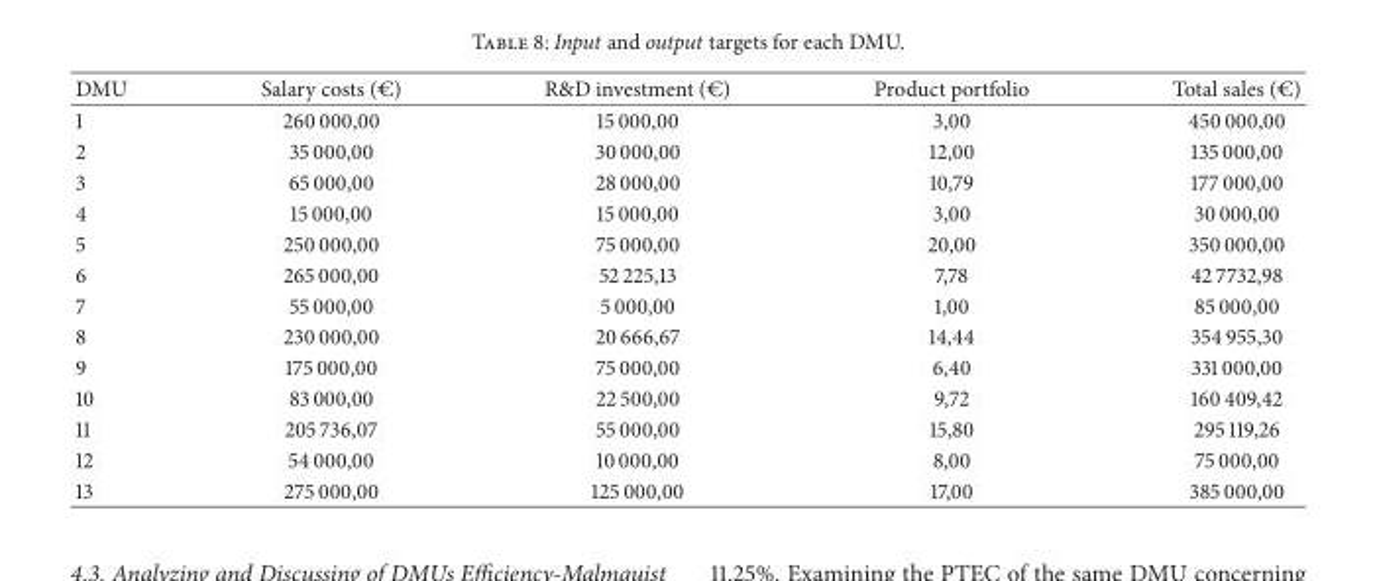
<table><thead><tr><td>DMU</td><td>Salary costs (€)</td><td>R&amp;D investment (€)</td><td>Product portfolio</td><td>Total sales (€)</td></tr></thead><tbody><tr><td>1</td><td>260 000,00</td><td>15 000,00</td><td>3,00</td><td>450 000,00</td></tr><tr><td>2</td><td>35 000,00</td><td>30 000,00</td><td>12,00</td><td>135 000,00</td></tr><tr><td>3</td><td>65 000,00</td><td>28 000,00</td><td>10,79</td><td>177 000,00</td></tr><tr><td>4</td><td>15 000,00</td><td>15 000,00</td><td>3,00</td><td>30 000,00</td></tr><tr><td>5</td><td>250 000,00</td><td>75 000,00</td><td>20,00</td><td>350 000,00</td></tr><tr><td>6</td><td>265 000,00</td><td>52 225,13</td><td>7,78</td><td>42 7732,98</td></tr><tr><td>7</td><td>55 000,00</td><td>5 000,00</td><td>1,00</td><td>85 000,00</td></tr><tr><td>8</td><td>230 000,00</td><td>20 666,67</td><td>14,44</td><td>354 955,30</td></tr><tr><td>9</td><td>175 000,00</td><td>75 000,00</td><td>6,40</td><td>331 000,00</td></tr><tr><td>10</td><td>83 000,00</td><td>22 500,00</td><td>9,72</td><td>160 409,42</td></tr><tr><td>11</td><td>205 736,07</td><td>55 000,00</td><td>15,80</td><td>295 119,26</td></tr><tr><td>12</td><td>54 000,00</td><td>10 000,00</td><td>8,00</td><td>75 000,00</td></tr><tr><td>13</td><td>275 000,00</td><td>125 000,00</td><td>17,00</td><td>385 000,00</td></tr></tbody></table>